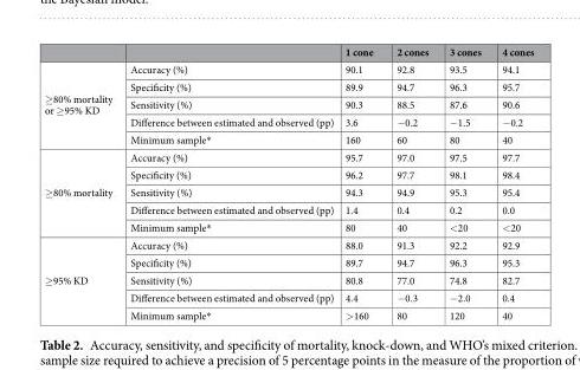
<table><thead><tr><td></td><td></td><td>1 cone</td><td>2 cones</td><td>3 cones</td><td>4 cones</td></tr></thead><tbody><tr><td rowspan="5">≥80% mortality or ≥95% KD</td><td>Accuracy (%)</td><td>90.1</td><td>92.8</td><td>93.5</td><td>94.1</td></tr><tr><td>Specificity (%)</td><td>89.9</td><td>94.7</td><td>96.3</td><td>95.7</td></tr><tr><td>Sensitivity (%)</td><td>90.3</td><td>88.5</td><td>87.6</td><td>90.6</td></tr><tr><td>Difference between estimated and observed (pp)</td><td>3.6</td><td>−0.2</td><td>−1.5</td><td>−0.2</td></tr><tr><td>Minimum sample*</td><td>160</td><td>60</td><td>80</td><td>40</td></tr><tr><td rowspan="5">≥80% mortality</td><td>Accuracy (%)</td><td>95.7</td><td>97.0</td><td>97.5</td><td>97.7</td></tr><tr><td>Specificity (%)</td><td>96.2</td><td>97.7</td><td>98.1</td><td>98.4</td></tr><tr><td>Sensitivity (%)</td><td>94.3</td><td>94.9</td><td>95.3</td><td>95.4</td></tr><tr><td>Difference between estimated and observed (pp)</td><td>1.4</td><td>0.4</td><td>0.2</td><td>0.0</td></tr><tr><td>Minimum sample*</td><td>80</td><td>40</td><td>&lt;20</td><td>&lt;20</td></tr><tr><td rowspan="5">≥95% KD</td><td>Accuracy (%)</td><td>88.0</td><td>91.3</td><td>92.2</td><td>92.9</td></tr><tr><td>Specificity (%)</td><td>89.7</td><td>94.7</td><td>96.3</td><td>95.3</td></tr><tr><td>Sensitivity (%)</td><td>80.8</td><td>77.0</td><td>74.8</td><td>82.7</td></tr><tr><td>Difference between estimated and observed (pp)</td><td>4.4</td><td>−0.3</td><td>−2.0</td><td>0.4</td></tr><tr><td>Minimum sample*</td><td>&gt;160</td><td>80</td><td>120</td><td>40</td></tr></tbody></table>